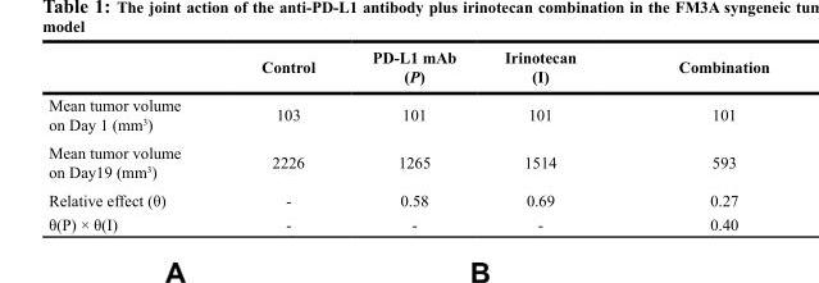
<table><thead><tr><td></td><td>Control</td><td>PD-L1 mAb (P)</td><td>Irinotecan (I)</td><td>Combination</td></tr></thead><tbody><tr><td>Mean tumor volume on Day 1 (mm<sup>3</sup>)</td><td>103</td><td>101</td><td>101</td><td>101</td></tr><tr><td>Mean tumor volume on Day19 (mm<sup>3</sup>)</td><td>2226</td><td>1265</td><td>1514</td><td>593</td></tr><tr><td>Relative effect (θ)</td><td>-</td><td>0.58</td><td>0.69</td><td>0.27</td></tr><tr><td>θ(P) × θ(I)</td><td>-</td><td>-</td><td>-</td><td>0.40</td></tr></tbody></table>